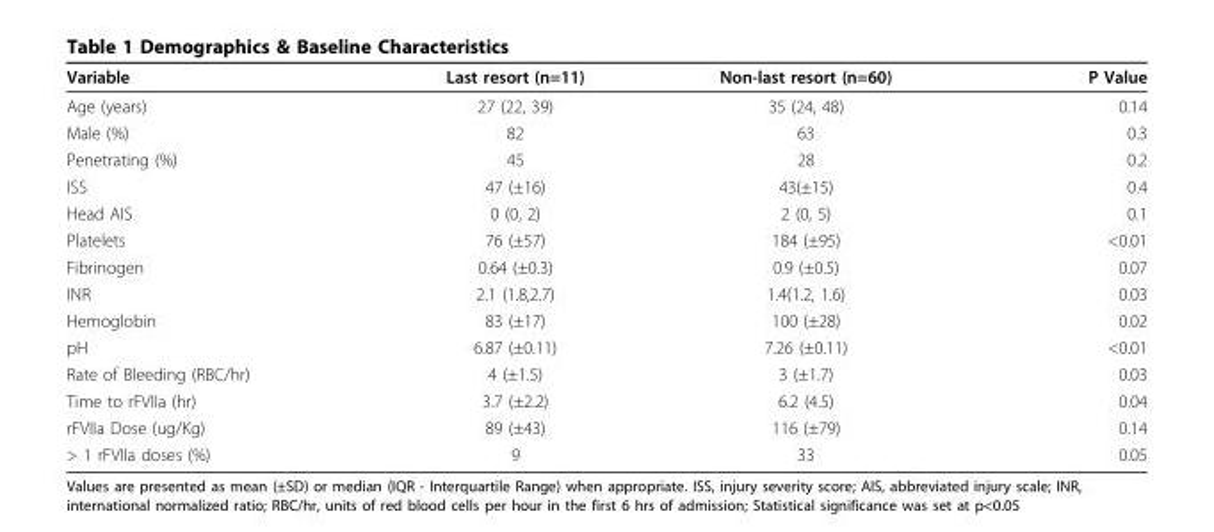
<table><thead><tr><td>Variable</td><td>Last resort (n=11)</td><td>Non-last resort (n=60)</td><td>P Value</td></tr></thead><tbody><tr><td>Age (years)</td><td>27 (22, 39)</td><td>35 (24, 48)</td><td>0.14</td></tr><tr><td>Male (%)</td><td>82</td><td>63</td><td>0.3</td></tr><tr><td>Penetrating (%)</td><td>45</td><td>28</td><td>0.2</td></tr><tr><td>ISS</td><td>47 (±16)</td><td>43(±15)</td><td>0.4</td></tr><tr><td>Head AIS</td><td>0 (0, 2)</td><td>2 (0, 5)</td><td>0.1</td></tr><tr><td>Platelets</td><td>76 (±57)</td><td>184 (±95)</td><td>&lt;0.01</td></tr><tr><td>Fibrinogen</td><td>0.64 (±0.3)</td><td>0.9 (±0.5)</td><td>0.07</td></tr><tr><td>INR</td><td>2.1 (1.8,2.7)</td><td>1.4(1.2, 1.6)</td><td>0.03</td></tr><tr><td>Hemoglobin</td><td>83 (±17)</td><td>100 (±28)</td><td>0.02</td></tr><tr><td>pH</td><td>6.87 (±0.11)</td><td>7.26 (±0.11)</td><td>&lt;0.01</td></tr><tr><td>Rate of Bleeding (RBC/hr)</td><td>4 (±1.5)</td><td>3 (±1.7)</td><td>0.03</td></tr><tr><td>Time to rFVIIa (hr)</td><td>3.7 (±2.2)</td><td>6.2 (4.5)</td><td>0.04</td></tr><tr><td>rFVIIa Dose (ug/Kg)</td><td>89 (±43)</td><td>116 (±79)</td><td>0.14</td></tr><tr><td>&gt; 1 rFVIIa doses (%)</td><td>9</td><td>33</td><td>0.05</td></tr></tbody></table>